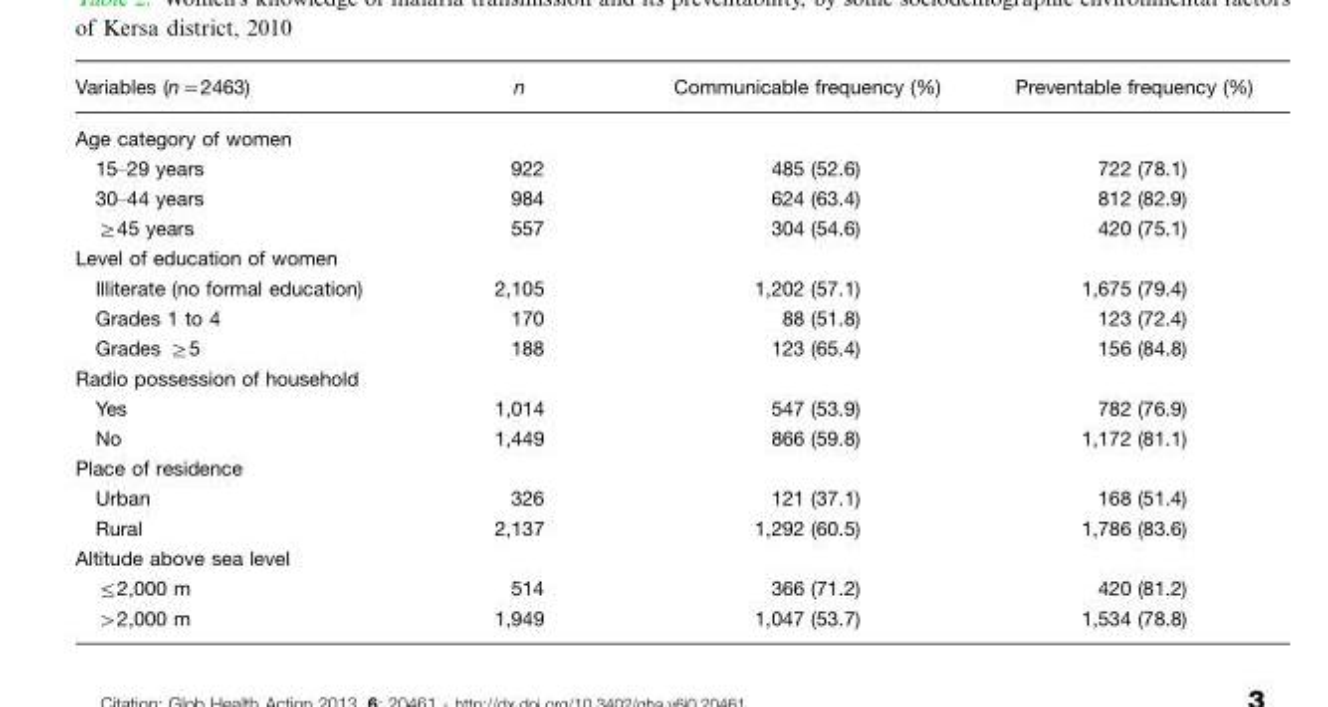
<table><thead><tr><td>Variables (n=2463)</td><td>n</td><td>Communicable frequency (%)</td><td>Preventable frequency (%)</td></tr></thead><tbody><tr><td colspan="4">Age category of women</td></tr><tr><td>15–29 years</td><td>922</td><td>485 (52.6)</td><td>722 (78.1)</td></tr><tr><td>30–44 years</td><td>984</td><td>624 (63.4)</td><td>812 (82.9)</td></tr><tr><td>≥45 years</td><td>557</td><td>304 (54.6)</td><td>420 (75.1)</td></tr><tr><td colspan="4">Level of education of women</td></tr><tr><td>Illiterate (no formal education)</td><td>2,105</td><td>1,202 (57.1)</td><td>1,675 (79.4)</td></tr><tr><td>Grades 1 to 4</td><td>170</td><td>88 (51.8)</td><td>123 (72.4)</td></tr><tr><td>Grades ≥5</td><td>188</td><td>123 (65.4)</td><td>156 (84.8)</td></tr><tr><td colspan="4">Radio possession of household</td></tr><tr><td>Yes</td><td>1,014</td><td>547 (53.9)</td><td>782 (76.9)</td></tr><tr><td>No</td><td>1,449</td><td>866 (59.8)</td><td>1,172 (81.1)</td></tr><tr><td colspan="4">Place of residence</td></tr><tr><td>Urban</td><td>326</td><td>121 (37.1)</td><td>168 (51.4)</td></tr><tr><td>Rural</td><td>2,137</td><td>1,292 (60.5)</td><td>1,786 (83.6)</td></tr><tr><td colspan="4">Altitude above sea level</td></tr><tr><td>≤2,000 m</td><td>514</td><td>366 (71.2)</td><td>420 (81.2)</td></tr><tr><td>&gt;2,000 m</td><td>1,949</td><td>1,047 (53.7)</td><td>1,534 (78.8)</td></tr></tbody></table>